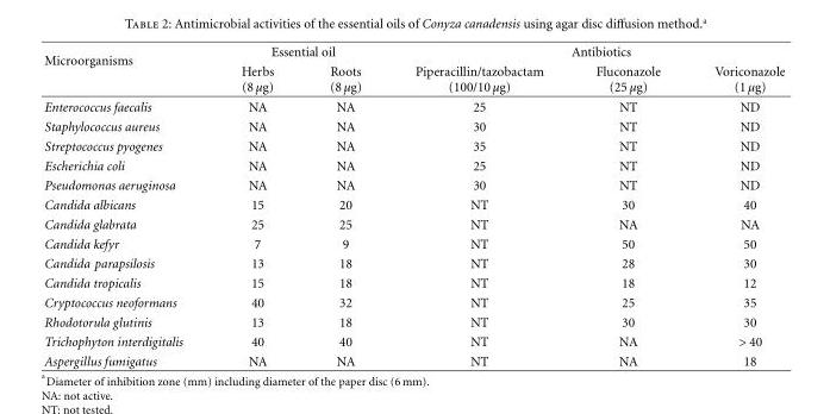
<table><thead><tr><td rowspan="2">Microorganisms</td><td colspan="2">Essential oil</td><td colspan="3">Antibiotics</td></tr><tr><td>Herbs (8 μg)</td><td>Roots (8 μg)</td><td>Piperacillin/tazobactam (100/10 μg)</td><td>Fluconazole (25 μg)</td><td>Voriconazole (1 μg)</td></tr></thead><tbody><tr><td>Enterococcus faecalis</td><td>NA</td><td>NA</td><td>25</td><td>NT</td><td>ND</td></tr><tr><td>Staphylococcus aureus</td><td>NA</td><td>NA</td><td>30</td><td>NT</td><td>ND</td></tr><tr><td>Streptococcus pyogenes</td><td>NA</td><td>NA</td><td>35</td><td>NT</td><td>ND</td></tr><tr><td>Escherichia coli</td><td>NA</td><td>NA</td><td>25</td><td>NT</td><td>ND</td></tr><tr><td>Pseudomonas aeruginosa</td><td>NA</td><td>NA</td><td>30</td><td>NT</td><td>ND</td></tr><tr><td>Candida albicans</td><td>15</td><td>20</td><td>NT</td><td>30</td><td>40</td></tr><tr><td>Candida glabrata</td><td>25</td><td>25</td><td>NT</td><td>NA</td><td>NA</td></tr><tr><td>Candida kefyr</td><td>7</td><td>9</td><td>NT</td><td>50</td><td>50</td></tr><tr><td>Candida parapsilosis</td><td>13</td><td>18</td><td>NT</td><td>28</td><td>30</td></tr><tr><td>Candida tropicalis</td><td>15</td><td>18</td><td>NT</td><td>18</td><td>12</td></tr><tr><td>Cryptococcus neoformans</td><td>40</td><td>32</td><td>NT</td><td>25</td><td>35</td></tr><tr><td>Rhodotorula glutinis</td><td>13</td><td>18</td><td>NT</td><td>30</td><td>30</td></tr><tr><td>Trichophyton interdigitalis</td><td>40</td><td>40</td><td>NT</td><td>NA</td><td>&gt; 40</td></tr><tr><td>Aspergillus fumigatus</td><td>NA</td><td>NA</td><td>NT</td><td>NA</td><td>18</td></tr></tbody></table>